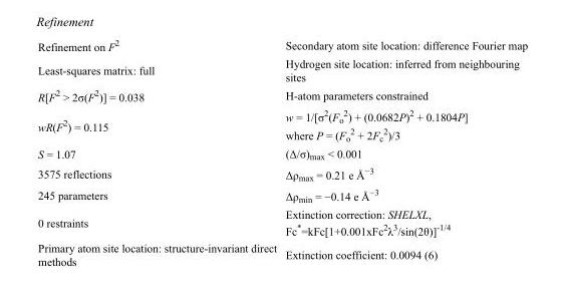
<table><tbody><tr><td>Refinement on F<sup>2</sup></td><td>Secondary atom site location: difference Fourier map</td></tr><tr><td>Least-squares matrix: full</td><td>Hydrogen site location: inferred from neighbouring sites</td></tr><tr><td>R[F<sup>2</sup> &gt; 2σ(F<sup>2</sup>)] = 0.038</td><td>H-atom parameters constrained</td></tr><tr><td>wR(F<sup>2</sup>) = 0.115</td><td>w = 1/[σ<sup>2</sup>(F<sub>o</sub> <sup>2</sup>) + (0.0682P)<sup>2</sup> + 0.1804P] where P = (F<sub>o</sub> <sup>2</sup> + 2F<sub>c</sub> <sup>2</sup>)/3</td></tr><tr><td>S = 1.07</td><td>(Δ/σ)<sub>max</sub> &lt; 0.001</td></tr><tr><td>3575 reflections</td><td>Δρ<sub>max</sub> = 0.21 e Å<sup>−3</sup></td></tr><tr><td>245 parameters</td><td>Δρ<sub>min</sub> = −0.14 e Å<sup>−3</sup></td></tr><tr><td>0 restraints</td><td>Extinction correction: SHELXL, Fc*=kFc[1+0.001xFc<sup>2</sup>λ<sup>3</sup>/sin(2θ)]<sup>-1/4</sup></td></tr><tr><td>Primary atom site location: structure-invariant direct methods</td><td>Extinction coefficient: 0.0094 (6)</td></tr></tbody></table>